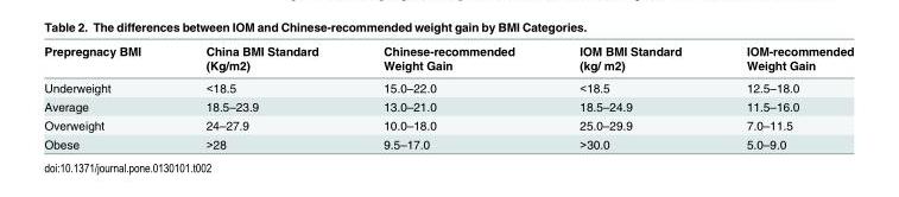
<table><thead><tr><td>Prepregnacy BMI</td><td>China BMI Standard (Kg/m2)</td><td>Chinese-recommended Weight Gain</td><td>IOM BMI Standard (kg/ m2)</td><td>IOM-recommended Weight Gain</td></tr></thead><tbody><tr><td>Underweight</td><td>&lt;18.5</td><td>15.0–22.0</td><td>&lt;18.5</td><td>12.5–18.0</td></tr><tr><td>Average</td><td>18.5–23.9</td><td>13.0–21.0</td><td>18.5–24.9</td><td>11.5–16.0</td></tr><tr><td>Overweight</td><td>24–27.9</td><td>10.0–18.0</td><td>25.0–29.9</td><td>7.0–11.5</td></tr><tr><td>Obese</td><td>&gt;28</td><td>9.5–17.0</td><td>&gt;30.0</td><td>5.0–9.0</td></tr></tbody></table>